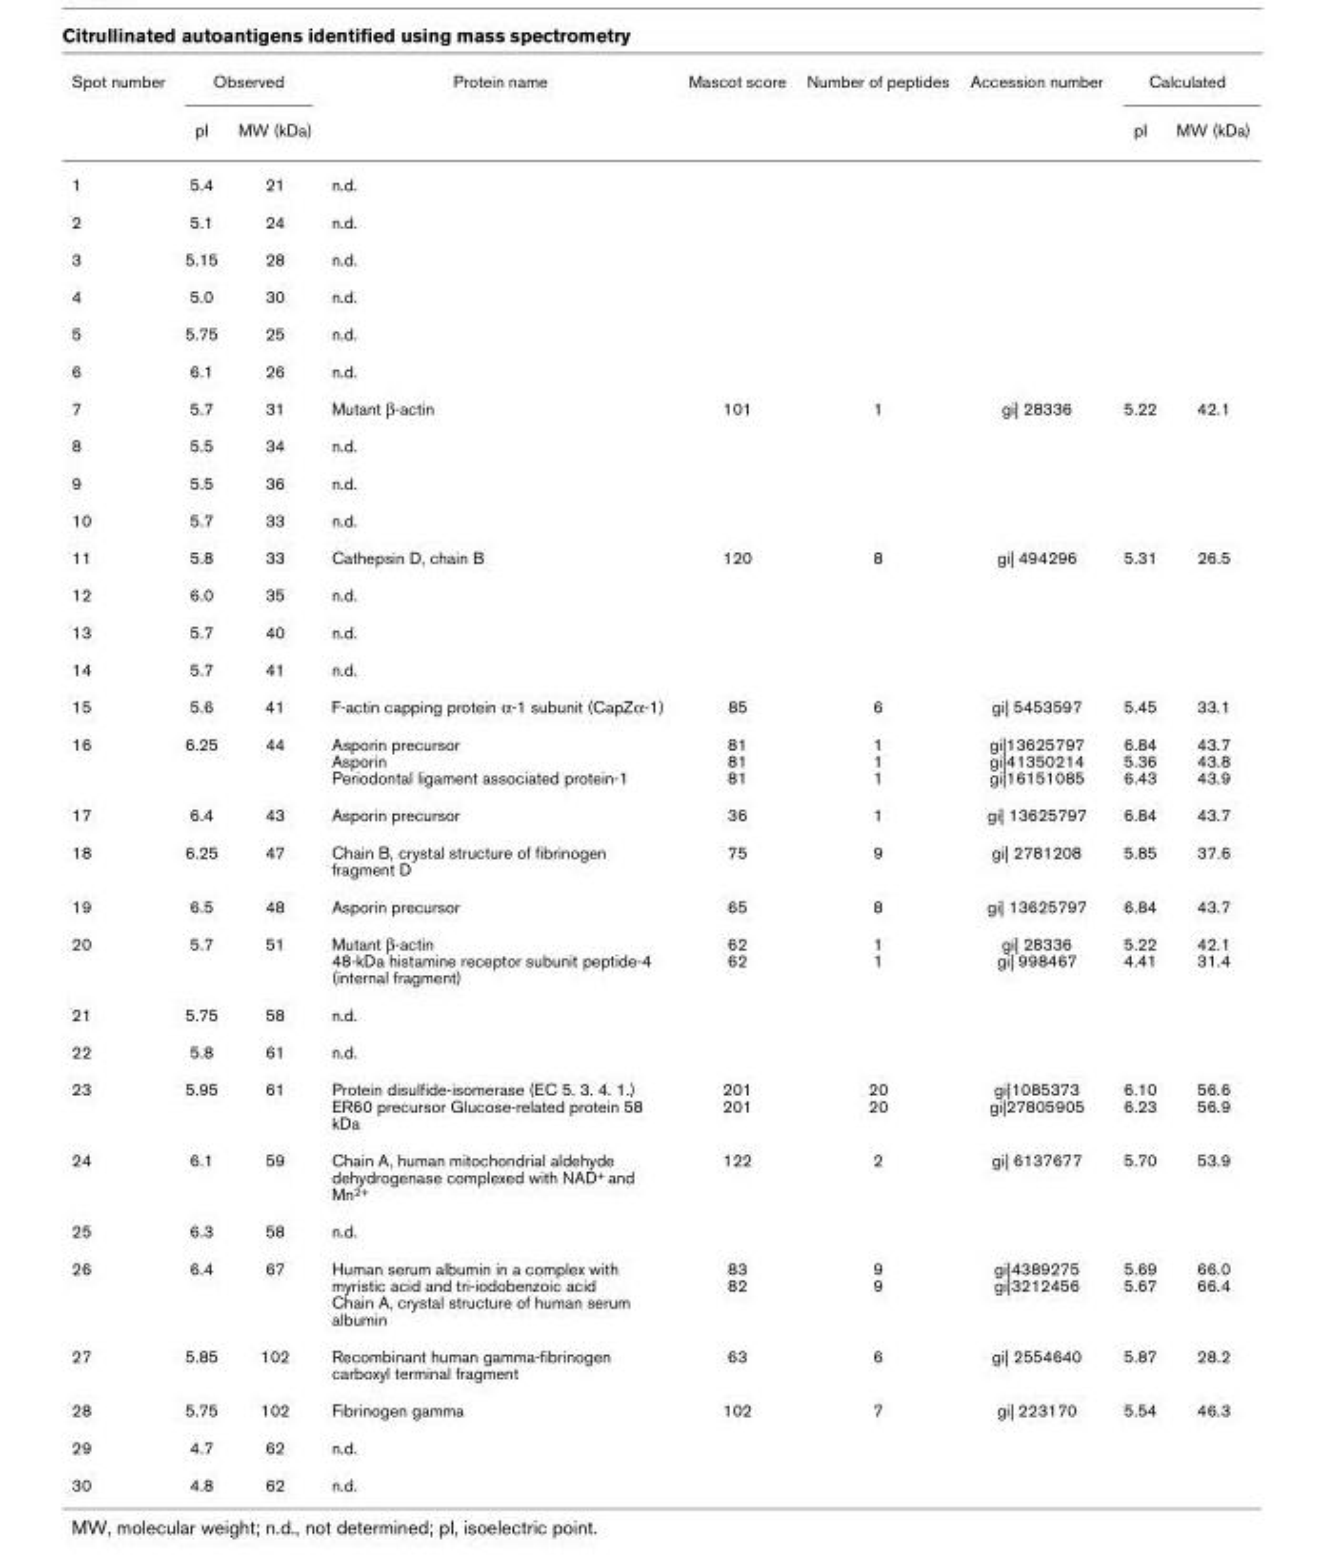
<table><thead><tr><td rowspan="2">Spot number</td><td colspan="2">Observed</td><td rowspan="2">Protein name</td><td rowspan="2">Mascot score</td><td rowspan="2">Number of peptides</td><td rowspan="2">Accession number</td><td colspan="2">Calculated</td></tr><tr><td>pI</td><td>MW (kDa)</td><td>pI</td><td>MW (kDa)</td></tr></thead><tbody><tr><td>1</td><td>5.4</td><td>21</td><td>n.d.</td><td></td><td></td><td></td><td></td><td></td></tr><tr><td>2</td><td>5.1</td><td>24</td><td>n.d.</td><td></td><td></td><td></td><td></td><td></td></tr><tr><td>3</td><td>5.15</td><td>28</td><td>n.d.</td><td></td><td></td><td></td><td></td><td></td></tr><tr><td>4</td><td>5.0</td><td>30</td><td>n.d.</td><td></td><td></td><td></td><td></td><td></td></tr><tr><td>5</td><td>5.75</td><td>25</td><td>n.d.</td><td></td><td></td><td></td><td></td><td></td></tr><tr><td>6</td><td>6.1</td><td>26</td><td>n.d.</td><td></td><td></td><td></td><td></td><td></td></tr><tr><td>7</td><td>5.7</td><td>31</td><td>Mutant β-actin</td><td>101</td><td>1</td><td>gi| 28336</td><td>5.22</td><td>42.1</td></tr><tr><td>8</td><td>5.5</td><td>34</td><td>n.d.</td><td></td><td></td><td></td><td></td><td></td></tr><tr><td>9</td><td>5.5</td><td>36</td><td>n.d.</td><td></td><td></td><td></td><td></td><td></td></tr><tr><td>10</td><td>5.7</td><td>33</td><td>n.d.</td><td></td><td></td><td></td><td></td><td></td></tr><tr><td>11</td><td>5.8</td><td>33</td><td>Cathepsin D, chain B</td><td>120</td><td>8</td><td>gi| 494296</td><td>5.31</td><td>26.5</td></tr><tr><td>12</td><td>6.0</td><td>35</td><td>n.d.</td><td></td><td></td><td></td><td></td><td></td></tr><tr><td>13</td><td>5.7</td><td>40</td><td>n.d.</td><td></td><td></td><td></td><td></td><td></td></tr><tr><td>14</td><td>5.7</td><td>41</td><td>n.d.</td><td></td><td></td><td></td><td></td><td></td></tr><tr><td>15</td><td>5.6</td><td>41</td><td>F-actin capping protein α-1 subunit (CapZα-1)</td><td>85</td><td>6</td><td>gi| 5453597</td><td>5.45</td><td>33.1</td></tr><tr><td>16</td><td>6.25</td><td>44</td><td>Asporin precursor Asporin Periodontal ligament associated protein-1</td><td>81 81 81</td><td>1 1 1</td><td>gi|13625797 gi|41350214 gi|16151085</td><td>6.84 5.36 6.43</td><td>43.7 43.8 43.9</td></tr><tr><td>17</td><td>6.4</td><td>43</td><td>Asporin precursor</td><td>36</td><td>1</td><td>gi| 13625797</td><td>6.84</td><td>43.7</td></tr><tr><td>18</td><td>6.25</td><td>47</td><td>Chain B, crystal structure of fibrinogen fragment D</td><td>75</td><td>9</td><td>gi| 2781208</td><td>5.85</td><td>37.6</td></tr><tr><td>19</td><td>6.5</td><td>48</td><td>Asporin precursor</td><td>65</td><td>8</td><td>gi| 13625797</td><td>6.84</td><td>43.7</td></tr><tr><td>20</td><td>5.7</td><td>51</td><td>Mutant β-actin 48-kDa histamine receptor subunit peptide-4 (internal fragment)</td><td>62 62</td><td>1 1</td><td>gi| 28336 gi| 998467</td><td>5.22 4.41</td><td>42.1 31.4</td></tr><tr><td>21</td><td>5.75</td><td>58</td><td>n.d.</td><td></td><td></td><td></td><td></td><td></td></tr><tr><td>22</td><td>5.8</td><td>61</td><td>n.d.</td><td></td><td></td><td></td><td></td><td></td></tr><tr><td>23</td><td>5.95</td><td>61</td><td>Protein disulfide-isomerase (EC 5. 3. 4. 1.) ER60 precursor Glucose-related protein 58 kDa</td><td>201 201</td><td>20 20</td><td>gi|1085373 gi|27805905</td><td>6.10 6.23</td><td>56.6 56.9</td></tr><tr><td>24</td><td>6.1</td><td>59</td><td>Chain A, human mitochondrial aldehyde dehydrogenase complexed with NAD+ and Mn2+</td><td>122</td><td>2</td><td>gi| 6137677</td><td>5.70</td><td>53.9</td></tr><tr><td>25</td><td>6.3</td><td>58</td><td>n.d.</td><td></td><td></td><td></td><td></td><td></td></tr><tr><td>26</td><td>6.4</td><td>67</td><td>Human serum albumin in a complex with myristic acid and tri-iodobenzoic acid Chain A, crystal structure of human serum albumin</td><td>83 82</td><td>9 9</td><td>gi|4389275 gi|3212456</td><td>5.69 5.67</td><td>66.0 66.4</td></tr><tr><td>27</td><td>5.85</td><td>102</td><td>Recombinant human gamma-fibrinogen carboxyl terminal fragment</td><td>63</td><td>6</td><td>gi| 2554640</td><td>5.87</td><td>28.2</td></tr><tr><td>28</td><td>5.75</td><td>102</td><td>Fibrinogen gamma</td><td>102</td><td>7</td><td>gi| 223170</td><td>5.54</td><td>46.3</td></tr><tr><td>29</td><td>4.7</td><td>62</td><td>n.d.</td><td></td><td></td><td></td><td></td><td></td></tr><tr><td>30</td><td>4.8</td><td>62</td><td>n.d.</td><td></td><td></td><td></td><td></td><td></td></tr></tbody></table>